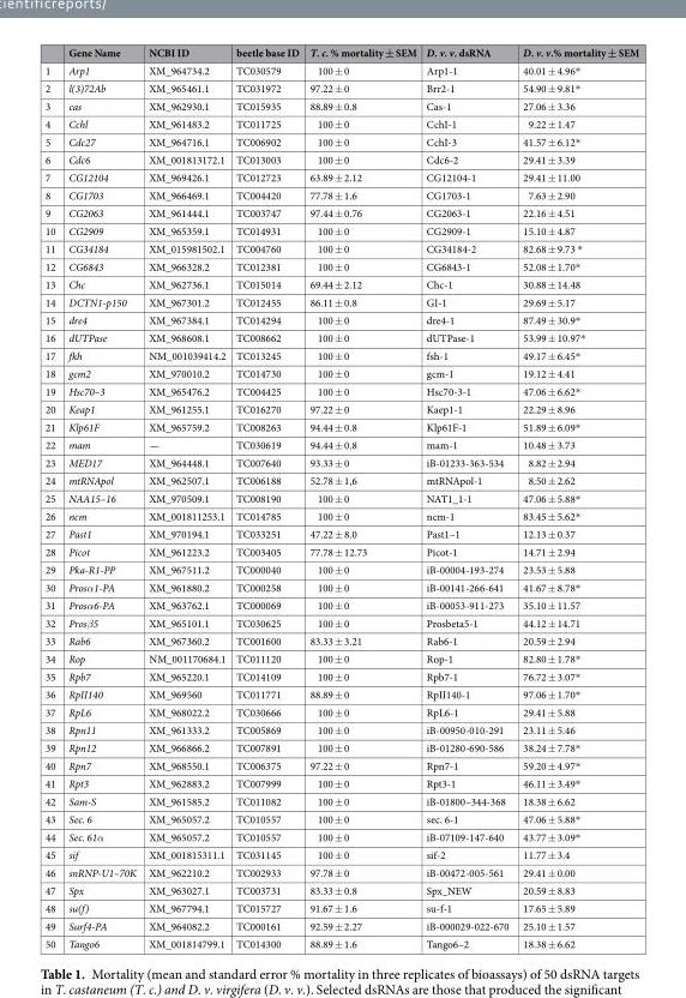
<table><thead><tr><td></td><td>Gene Name</td><td>NCBI ID</td><td>beetle base ID</td><td>T. c. % mortality ± SEM</td><td>D. v. v. dsRNA</td><td>D. v. v.% mortality ± SEM</td></tr></thead><tbody><tr><td>1</td><td>Arp1</td><td>XM_964734.2</td><td>TC030579</td><td>100 ± 0</td><td>Arp1-1</td><td>40.01 ± 4.96*</td></tr><tr><td>2</td><td>l(3)72Ab</td><td>XM_965461.1</td><td>TC031972</td><td>97.22 ± 0</td><td>Brr2-1</td><td>54.90 ± 9.81*</td></tr><tr><td>3</td><td>cas</td><td>XM_962930.1</td><td>TC015935</td><td>88.89 ± 0.8</td><td>Cas-1</td><td>27.06 ± 3.36</td></tr><tr><td>4</td><td>Cchl</td><td>XM_961483.2</td><td>TC011725</td><td>100 ± 0</td><td>CchI-1</td><td>9.22 ± 1.47</td></tr><tr><td>5</td><td>Cdc27</td><td>XM_964716.1</td><td>TC006902</td><td>100 ± 0</td><td>CchI-3</td><td>41.57 ± 6.12*</td></tr><tr><td>6</td><td>Cdc6</td><td>XM_001813172.1</td><td>TC013003</td><td>100 ± 0</td><td>Cdc6-2</td><td>29.41 ± 3.39</td></tr><tr><td>7</td><td>CG12104</td><td>XM_969426.1</td><td>TC012723</td><td>63.89 ± 2.12</td><td>CG12104-1</td><td>29.41 ± 11.00</td></tr><tr><td>8</td><td>CG1703</td><td>XM_966469.1</td><td>TC004420</td><td>77.78 ± 1.6</td><td>CG1703-1</td><td>7.63 ± 2.90</td></tr><tr><td>9</td><td>CG2063</td><td>XM_961444.1</td><td>TC003747</td><td>97.44 ± 0.76</td><td>CG2063-1</td><td>22.16 ± 4.51</td></tr><tr><td>10</td><td>CG2909</td><td>XM_965359.1</td><td>TC014931</td><td>100 ± 0</td><td>CG2909-1</td><td>15.10 ± 4.87</td></tr><tr><td>11</td><td>CG34184</td><td>XM_015981502.1</td><td>TC004760</td><td>100 ± 0</td><td>CG34184-2</td><td>82.68 ± 9.73 *</td></tr><tr><td>12</td><td>CG6843</td><td>XM_966328.2</td><td>TC012381</td><td>100 ± 0</td><td>CG6843-1</td><td>52.08 ± 1.70*</td></tr><tr><td>13</td><td>Chc</td><td>XM_962736.1</td><td>TC015014</td><td>69.44 ± 2.12</td><td>Chc-1</td><td>30.88 ± 14.48</td></tr><tr><td>14</td><td>DCTN1-p150</td><td>XM_967301.2</td><td>TC012455</td><td>86.11 ± 0.8</td><td>GI-1</td><td>29.69 ± 5.17</td></tr><tr><td>15</td><td>dre4</td><td>XM_967384.1</td><td>TC014294</td><td>100 ± 0</td><td>dre4-1</td><td>87.49 ± 30.9*</td></tr><tr><td>16</td><td>dUTPase</td><td>XM_968608.1</td><td>TC008662</td><td>100 ± 0</td><td>dUTPase-1</td><td>53.99 ± 10.97*</td></tr><tr><td>17</td><td>fkh</td><td>NM_001039414.2</td><td>TC013245</td><td>100 ± 0</td><td>fsh-1</td><td>49.17 ± 6.45*</td></tr><tr><td>18</td><td>gcm2</td><td>XM_970010.2</td><td>TC014730</td><td>100 ± 0</td><td>gcm-1</td><td>19.12 ± 4.41</td></tr><tr><td>19</td><td>Hsc70–3</td><td>XM_965476.2</td><td>TC004425</td><td>100 ± 0</td><td>Hsc70-3-1</td><td>47.06 ± 6.62*</td></tr><tr><td>20</td><td>Keap1</td><td>XM_961255.1</td><td>TC016270</td><td>97.22 ± 0</td><td>Kaep1-1</td><td>22.29 ± 8.96</td></tr><tr><td>21</td><td>Klp61F</td><td>XM_965759.2</td><td>TC008263</td><td>94.44 ± 0.8</td><td>Klp61F-1</td><td>51.89 ± 6.09*</td></tr><tr><td>22</td><td>mam</td><td>—</td><td>TC030619</td><td>94.44 ± 0.8</td><td>mam-1</td><td>10.48 ± 3.73</td></tr><tr><td>23</td><td>MED17</td><td>XM_964448.1</td><td>TC007640</td><td>93.33 ± 0</td><td>iB-01233-363-534</td><td>8.82 ± 2.94</td></tr><tr><td>24</td><td>mtRNApol</td><td>XM_962507.1</td><td>TC006188</td><td>52.78 ± 1,6</td><td>mtRNApol-1</td><td>8.50 ± 2.62</td></tr><tr><td>25</td><td>NAA15–16</td><td>XM_970509.1</td><td>TC008190</td><td>100 ± 0</td><td>NAT1_1-1</td><td>47.06 ± 5.88*</td></tr><tr><td>26</td><td>ncm</td><td>XM_001811253.1</td><td>TC014785</td><td>100 ± 0</td><td>ncm-1</td><td>83.45 ± 5.62*</td></tr><tr><td>27</td><td>Past1</td><td>XM_970194.1</td><td>TC033251</td><td>47.22 ± 8.0</td><td>Past1–1</td><td>12.13 ± 0.37</td></tr><tr><td>28</td><td>Picot</td><td>XM_961223.2</td><td>TC003405</td><td>77.78 ± 12.73</td><td>Picot-1</td><td>14.71 ± 2.94</td></tr><tr><td>29</td><td>Pka-R1-PP</td><td>XM_967511.2</td><td>TC000040</td><td>100 ± 0</td><td>iB-00004-193-274</td><td>23.53 ± 5.88</td></tr><tr><td>30</td><td>Prosα1-PA</td><td>XM_961880.2</td><td>TC000258</td><td>100 ± 0</td><td>iB-00141-266-641</td><td>41.67 ± 8.78*</td></tr><tr><td>31</td><td>Prosα6-PA</td><td>XM_963762.1</td><td>TC000069</td><td>100 ± 0</td><td>iB-00053-911-273</td><td>35.10 ± 11.57</td></tr><tr><td>32</td><td>Prosβ5</td><td>XM_965101.1</td><td>TC030625</td><td>100 ± 0</td><td>Prosbeta5-1</td><td>44.12 ± 14.71</td></tr><tr><td>33</td><td>Rab6</td><td>XM_967360.2</td><td>TC001600</td><td>83.33 ± 3.21</td><td>Rab6-1</td><td>20.59 ± 2.94</td></tr><tr><td>34</td><td>Rop</td><td>NM_001170684.1</td><td>TC011120</td><td>100 ± 0</td><td>Rop-1</td><td>82.80 ± 1.78*</td></tr><tr><td>35</td><td>Rpb7</td><td>XM_965220.1</td><td>TC014109</td><td>100 ± 0</td><td>Rpb7-1</td><td>76.72 ± 3.07*</td></tr><tr><td>36</td><td>RpII140</td><td>XM_969560</td><td>TC011771</td><td>88.89 ± 0</td><td>RpII140-1</td><td>97.06 ± 1.70*</td></tr><tr><td>37</td><td>RpL6</td><td>XM_968022.2</td><td>TC030666</td><td>100 ± 0</td><td>RpL6-1</td><td>29.41 ± 5.88</td></tr><tr><td>38</td><td>Rpn11</td><td>XM_961333.2</td><td>TC005869</td><td>100 ± 0</td><td>iB-00950-010-291</td><td>23.11 ± 5.46</td></tr><tr><td>39</td><td>Rpn12</td><td>XM_966866.2</td><td>TC007891</td><td>100 ± 0</td><td>iB-01280-690-586</td><td>38.24 ± 7.78*</td></tr><tr><td>40</td><td>Rpn7</td><td>XM_968550.1</td><td>TC006375</td><td>97.22 ± 0</td><td>Rpn7-1</td><td>59.20 ± 4.97*</td></tr><tr><td>41</td><td>Rpt3</td><td>XM_962883.2</td><td>TC007999</td><td>100 ± 0</td><td>Rpt3-1</td><td>46.11 ± 3.49*</td></tr><tr><td>42</td><td>Sam-S</td><td>XM_961585.2</td><td>TC011082</td><td>100 ± 0</td><td>iB-01800–344-368</td><td>18.38 ± 6.62</td></tr><tr><td>43</td><td>Sec. 6</td><td>XM_965057.2</td><td>TC010557</td><td>100 ± 0</td><td>sec. 6-1</td><td>47.06 ± 5.88*</td></tr><tr><td>44</td><td>Sec. 61α</td><td>XM_965057.2</td><td>TC010557</td><td>100 ± 0</td><td>iB-07109-147-640</td><td>43.77 ± 3.09*</td></tr><tr><td>45</td><td>sif</td><td>XM_001815311.1</td><td>TC031145</td><td>100 ± 0</td><td>sif-2</td><td>11.77 ± 3.4</td></tr><tr><td>46</td><td>snRNP-U1–70K</td><td>XM_962210.2</td><td>TC002933</td><td>97.78 ± 0</td><td>iB-00472-005-561</td><td>29.41 ± 0.00</td></tr><tr><td>47</td><td>Spx</td><td>XM_963027.1</td><td>TC003731</td><td>83.33 ± 0.8</td><td>Spx_NEW</td><td>20.59 ± 8.83</td></tr><tr><td>48</td><td>su(f)</td><td>XM_967794.1</td><td>TC015727</td><td>91.67 ± 1.6</td><td>su-f-1</td><td>17.65 ± 5.89</td></tr><tr><td>49</td><td>Surf4-PA</td><td>XM_964082.2</td><td>TC000161</td><td>92.59 ± 2.27</td><td>iB-000029-022-670</td><td>25.10 ± 1.57</td></tr><tr><td>50</td><td>Tango6</td><td>XM_001814799.1</td><td>TC014300</td><td>88.89 ± 1.6</td><td>Tango6–2</td><td>18.38 ± 6.62</td></tr></tbody></table>